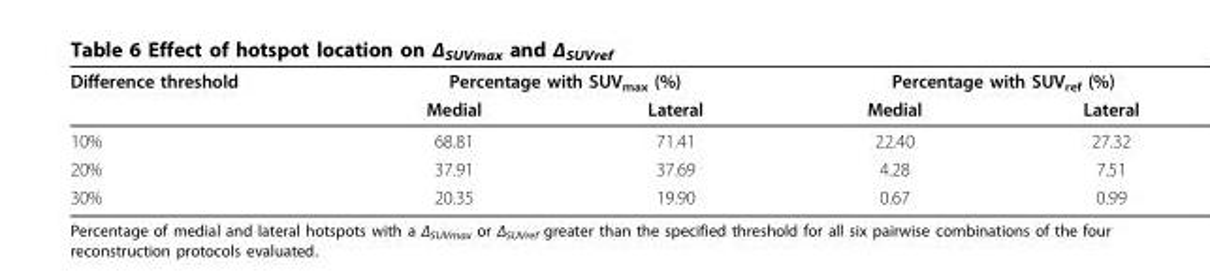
<table><thead><tr><td rowspan="2">Difference threshold</td><td colspan="2">Percentage with SUV<sub>max</sub> (%)</td><td colspan="2">Percentage with SUV<sub>ref</sub> (%)</td></tr><tr><td>Medial</td><td>Lateral</td><td>Medial</td><td>Lateral</td></tr></thead><tbody><tr><td>10%</td><td>68.81</td><td>71.41</td><td>22.40</td><td>27.32</td></tr><tr><td>20%</td><td>37.91</td><td>37.69</td><td>4.28</td><td>7.51</td></tr><tr><td>30%</td><td>20.35</td><td>19.90</td><td>0.67</td><td>0.99</td></tr></tbody></table>